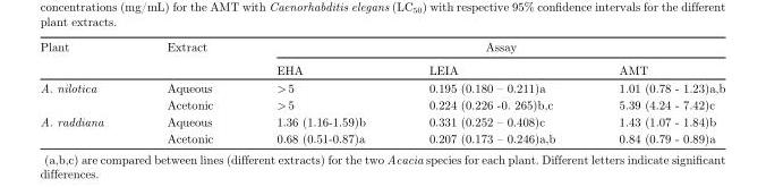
<table><thead><tr><td rowspan="2">Plant</td><td rowspan="2">Extract</td><td colspan="3">Assay</td></tr><tr><td>EHA</td><td>LEIA</td><td>AMT</td></tr></thead><tbody><tr><td rowspan="2">A. nilotica</td><td>Aqueous</td><td>&gt; 5</td><td>0.195 (0.180 – 0.211)a</td><td>1.01 (0.78 - 1.23)a,b</td></tr><tr><td>Acetonic</td><td>&gt; 5</td><td>0.224 (0.226 -0. 265)b,c</td><td>5.39 (4.24 - 7.42)c</td></tr><tr><td rowspan="2">A. raddiana</td><td>Aqueous</td><td>1.36 (1.16-1.59)b</td><td>0.331 (0.252 – 0.408)c</td><td>1.43 (1.07 - 1.84)b</td></tr><tr><td>Acetonic</td><td>0.68 (0.51-0.87)a</td><td>0.207 (0.173 – 0.246)a,b</td><td>0.84 (0.79 - 0.89)a</td></tr></tbody></table>